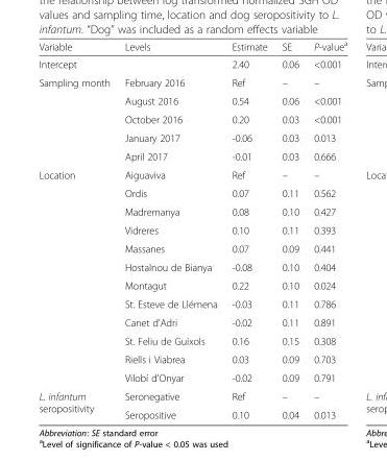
<table><thead><tr><td>Variable</td><td>Levels</td><td>Estimate</td><td>SE</td><td>P-value<sup>a</sup></td></tr></thead><tbody><tr><td>Intercept</td><td></td><td>2.40</td><td>0.06</td><td>&lt;0.001</td></tr><tr><td rowspan="5">Sampling month</td><td>February 2016</td><td>Ref</td><td>–</td><td>–</td></tr><tr><td>August 2016</td><td>0.54</td><td>0.06</td><td>&lt;0.001</td></tr><tr><td>October 2016</td><td>0.20</td><td>0.03</td><td>&lt;0.001</td></tr><tr><td>January 2017</td><td>-0.06</td><td>0.03</td><td>0.013</td></tr><tr><td>April 2017</td><td>-0.01</td><td>0.03</td><td>0.666</td></tr><tr><td rowspan="12">Location</td><td>Aiguaviva</td><td>Ref</td><td>–</td><td>–</td></tr><tr><td>Ordis</td><td>0.07</td><td>0.11</td><td>0.562</td></tr><tr><td>Madremanya</td><td>0.08</td><td>0.10</td><td>0.427</td></tr><tr><td>Vidreres</td><td>0.10</td><td>0.11</td><td>0.393</td></tr><tr><td>Massanes</td><td>0.07</td><td>0.09</td><td>0.441</td></tr><tr><td>Hostalnou de Bianya</td><td>-0.08</td><td>0.10</td><td>0.404</td></tr><tr><td>Montagut</td><td>0.22</td><td>0.10</td><td>0.024</td></tr><tr><td>St. Esteve de Llémena</td><td>-0.03</td><td>0.11</td><td>0.786</td></tr><tr><td>Canet d&#x27;Adri</td><td>-0.02</td><td>0.11</td><td>0.891</td></tr><tr><td>St. Feliu de Guíxols</td><td>0.16</td><td>0.15</td><td>0.308</td></tr><tr><td>Riells i Viabrea</td><td>0.03</td><td>0.09</td><td>0.703</td></tr><tr><td>Vilobí d&#x27;Onyar</td><td>-0.02</td><td>0.09</td><td>0.791</td></tr><tr><td rowspan="2">L. infantum seropositivity</td><td>Seronegative</td><td>Ref</td><td>–</td><td>–</td></tr><tr><td>Seropositive</td><td>0.10</td><td>0.04</td><td>0.013</td></tr></tbody></table>